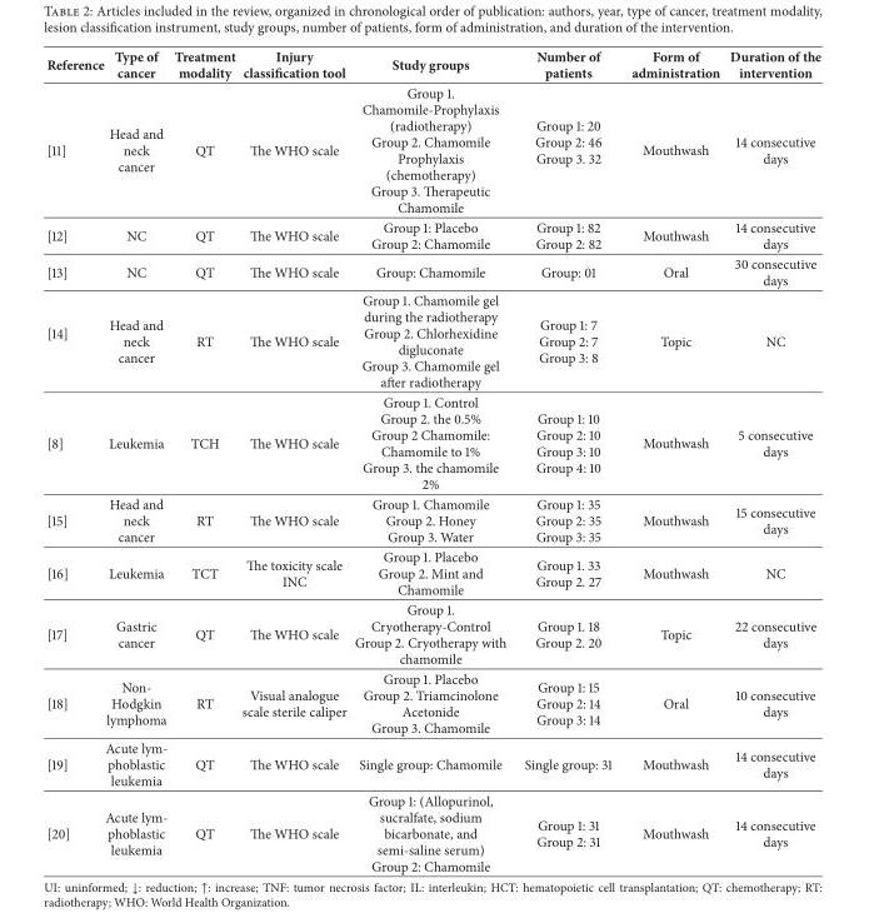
<table><thead><tr><td>Reference</td><td>Type of cancer</td><td>Treatment modality</td><td>Injury classification tool</td><td>Study groups</td><td>Number of patients</td><td>Form of administration</td><td>Duration of the intervention</td></tr></thead><tbody><tr><td>[11]</td><td>Head and neck cancer</td><td>QT</td><td>The WHO scale</td><td>Group 1. Chamomile-Prophylaxis (radiotherapy) Group 2. Chamomile Prophylaxis (chemotherapy) Group 3. Therapeutic Chamomile</td><td>Group 1: 20 Group 2: 46 Group 3. 32</td><td>Mouthwash</td><td>14 consecutive days</td></tr><tr><td>[12]</td><td>NC</td><td>QT</td><td>The WHO scale</td><td>Group 1: Placebo Group 2: Chamomile</td><td>Group 1: 82 Group 2: 82</td><td>Mouthwash</td><td>14 consecutive days</td></tr><tr><td>[13]</td><td>NC</td><td>QT</td><td>The WHO scale</td><td>Group: Chamomile</td><td>Group: 01</td><td>Oral</td><td>30 consecutive days</td></tr><tr><td>[14]</td><td>Head and neck cancer</td><td>RT</td><td>The WHO scale</td><td>Group 1. Chamomile gel during the radiotherapy Group 2. Chlorhexidine digluconate Group 3. Chamomile gel after radiotherapy</td><td>Group 1: 7 Group 2: 7 Group 3: 8</td><td>Topic</td><td>NC</td></tr><tr><td>[8]</td><td>Leukemia</td><td>TCH</td><td>The WHO scale</td><td>Group 1. Control Group 2. the 0.5% Group 2 Chamomile: Chamomile to 1% Group 3. the chamomile 2%</td><td>Group 1: 10 Group 2: 10 Group 3: 10 Group 4: 10</td><td>Mouthwash</td><td>5 consecutive days</td></tr><tr><td>[15]</td><td>Head and neck cancer</td><td>RT</td><td>The WHO scale</td><td>Group 1. Chamomile Group 2. Honey Group 3. Water</td><td>Group 1: 35 Group 2: 35 Group 3: 35</td><td>Mouthwash</td><td>15 consecutive days</td></tr><tr><td>[16]</td><td>Leukemia</td><td>TCT</td><td>The toxicity scale INC</td><td>Group 1. Placebo Group 2. Mint and Chamomile</td><td>Group 1. 33 Group 2. 27</td><td>Mouthwash</td><td>NC</td></tr><tr><td>[17]</td><td>Gastric cancer</td><td>QT</td><td>The WHO scale</td><td>Group 1. Cryotherapy-Control Group 2. Cryotherapy with chamomile</td><td>Group 1. 18 Group 2. 20</td><td>Topic</td><td>22 consecutive days</td></tr><tr><td>[18]</td><td>Non- Hodgkin lymphoma</td><td>RT</td><td>Visual analogue scale sterile caliper</td><td>Group 1. Placebo Group 2. Triamcinolone Acetonide Group 3. Chamomile</td><td>Group 1: 15 Group 2: 14 Group 3: 14</td><td>Oral</td><td>10 consecutive days</td></tr><tr><td>[19]</td><td>Acute lym- phoblastic leukemia</td><td>QT</td><td>The WHO scale</td><td>Single group: Chamomile</td><td>Single group: 31</td><td>Mouthwash</td><td>14 consecutive days</td></tr><tr><td>[20]</td><td>Acute lym- phoblastic leukemia</td><td>QT</td><td>The WHO scale</td><td>Group 1: (Allopurinol, sucralfate, sodium bicarbonate, and semi-saline serum) Group 2: Chamomile</td><td>Group 1: 31 Group 2: 31</td><td>Mouthwash</td><td>14 consecutive days</td></tr></tbody></table>